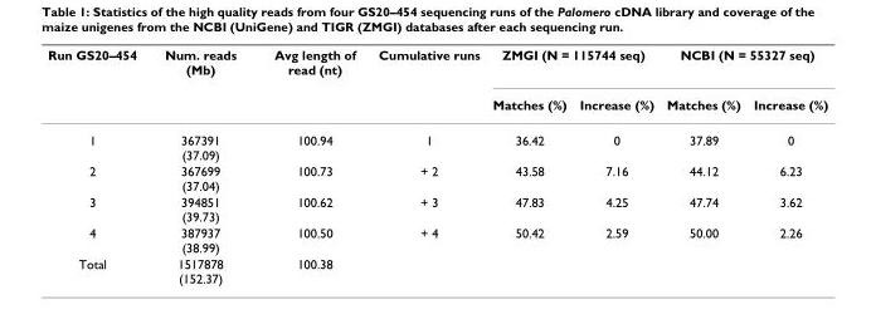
<table><thead><tr><td rowspan="2">Run GS20–454</td><td rowspan="2">Num. reads (Mb)</td><td rowspan="2">Avg length of read (nt)</td><td rowspan="2">Cumulative runs</td><td colspan="2">ZMGI (N = 115744 seq)</td><td colspan="2">NCBI (N = 55327 seq)</td></tr><tr><td>Matches (%)</td><td>Increase (%)</td><td>Matches (%)</td><td>Increase (%)</td></tr></thead><tbody><tr><td>1</td><td>367391 (37.09)</td><td>100.94</td><td>1</td><td>36.42</td><td>0</td><td>37.89</td><td>0</td></tr><tr><td>2</td><td>367699 (37.04)</td><td>100.73</td><td>+ 2</td><td>43.58</td><td>7.16</td><td>44.12</td><td>6.23</td></tr><tr><td>3</td><td>394851 (39.73)</td><td>100.62</td><td>+ 3</td><td>47.83</td><td>4.25</td><td>47.74</td><td>3.62</td></tr><tr><td>4</td><td>387937 (38.99)</td><td>100.50</td><td>+ 4</td><td>50.42</td><td>2.59</td><td>50.00</td><td>2.26</td></tr><tr><td>Total</td><td>1517878 (152.37)</td><td>100.38</td><td></td><td></td><td></td><td></td><td></td></tr></tbody></table>